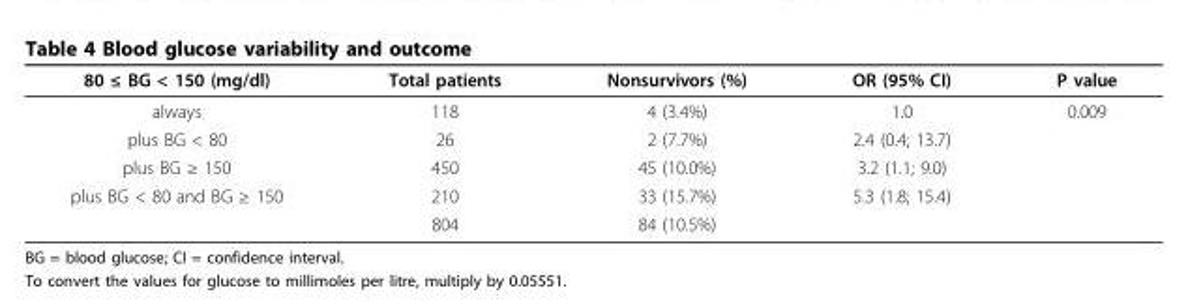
<table><thead><tr><td>80 ≤ BG &lt; 150 (mg/dl)</td><td>Total patients</td><td>Nonsurvivors (%)</td><td>OR (95% CI)</td><td>P value</td></tr></thead><tbody><tr><td>always</td><td>118</td><td>4 (3.4%)</td><td>1.0</td><td>0.009</td></tr><tr><td>plus BG &lt; 80</td><td>26</td><td>2 (7.7%)</td><td>2.4 (0.4; 13.7)</td><td></td></tr><tr><td>plus BG ≥ 150</td><td>450</td><td>45 (10.0%)</td><td>3.2 (1.1; 9.0)</td><td></td></tr><tr><td rowspan="2">plus BG &lt; 80 and BG ≥ 150</td><td>210</td><td>33 (15.7%)</td><td>5.3 (1.8; 15.4)</td><td></td></tr><tr><td>804</td><td>84 (10.5%)</td><td></td><td></td></tr></tbody></table>